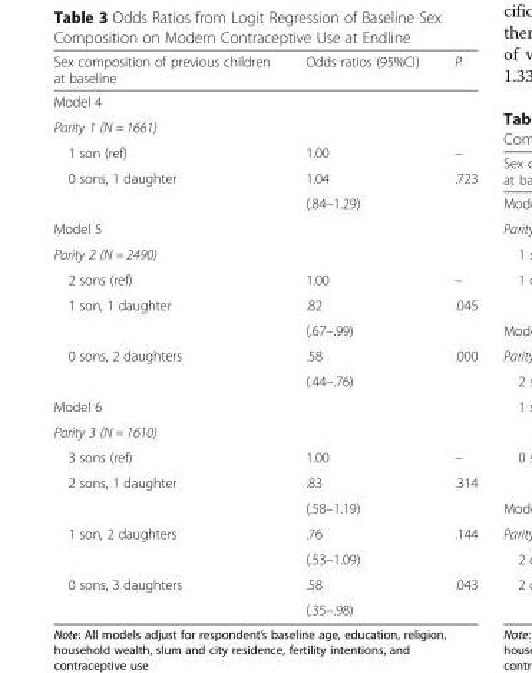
<table><thead><tr><td>Sex composition of previous children at baseline</td><td>Odds ratios (95%CI)</td><td>P</td></tr></thead><tbody><tr><td colspan="3">Model 4</td></tr><tr><td colspan="3">Parity 1 (N = 1661)</td></tr><tr><td>1 son (ref)</td><td>1.00</td><td>–</td></tr><tr><td rowspan="2">0 sons, 1 daughter</td><td>1.04</td><td>.723</td></tr><tr><td>(.84–1.29)</td><td></td></tr><tr><td colspan="3">Model 5</td></tr><tr><td colspan="3">Parity 2 (N = 2490)</td></tr><tr><td>2 sons (ref)</td><td>1.00</td><td>–</td></tr><tr><td rowspan="2">1 son, 1 daughter</td><td>.82</td><td>.045</td></tr><tr><td>(.67–.99)</td><td></td></tr><tr><td rowspan="2">0 sons, 2 daughters</td><td>.58</td><td>.000</td></tr><tr><td>(.44–.76)</td><td></td></tr><tr><td colspan="3">Model 6</td></tr><tr><td colspan="3">Parity 3 (N = 1610)</td></tr><tr><td>3 sons (ref)</td><td>1.00</td><td>–</td></tr><tr><td rowspan="2">2 sons, 1 daughter</td><td>.83</td><td>.314</td></tr><tr><td>(.58–1.19)</td><td></td></tr><tr><td rowspan="2">1 son, 2 daughters</td><td>.76</td><td>.144</td></tr><tr><td>(.53–1.09)</td><td></td></tr><tr><td rowspan="2">0 sons, 3 daughters</td><td>.58</td><td>.043</td></tr><tr><td>(.35–.98)</td><td></td></tr></tbody></table>